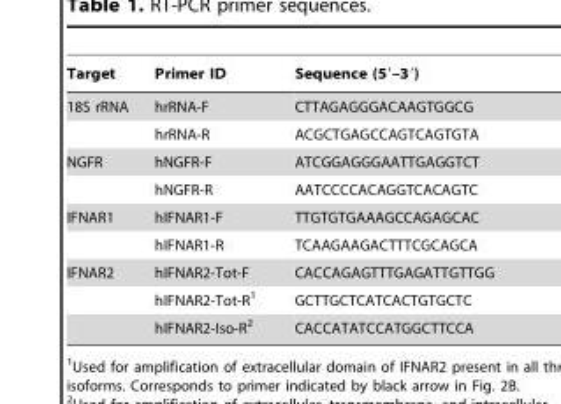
<table><thead><tr><td>Target</td><td>Primer ID</td><td>Sequence (5′–3′)</td></tr></thead><tbody><tr><td rowspan="2">18S rRNA</td><td>hrRNA-F</td><td>CTTAGAGGGACAAGTGGCG</td></tr><tr><td>hrRNA-R</td><td>ACGCTGAGCCAGTCAGTGTA</td></tr><tr><td rowspan="2">NGFR</td><td>hNGFR-F</td><td>ATCGGAGGGAATTGAGGTCT</td></tr><tr><td>hNGFR-R</td><td>AATCCCCACAGGTCACAGTC</td></tr><tr><td rowspan="2">IFNAR1</td><td>hIFNAR1-F</td><td>TTGTGTGAAAGCCAGAGCAC</td></tr><tr><td>hIFNAR1-R</td><td>TCAAGAAGACTTTCGCAGCA</td></tr><tr><td rowspan="3">IFNAR2</td><td>hIFNAR2-Tot-F</td><td>CACCAGAGTTTGAGATTGTTGG</td></tr><tr><td>hIFNAR2-Tot-R<sup>1</sup></td><td>GCTTGCTCATCACTGTGCTC</td></tr><tr><td>hIFNAR2-Iso-R<sup>2</sup></td><td>CACCATATCCATGGCTTCCA</td></tr></tbody></table>